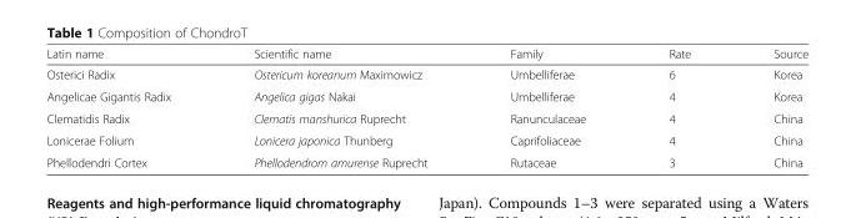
<table><thead><tr><td>Latin name</td><td>Scientific name</td><td>Family</td><td>Rate</td><td>Source</td></tr></thead><tbody><tr><td>Osterici Radix</td><td>Ostericum koreanum Maximowicz</td><td>Umbelliferae</td><td>6</td><td>Korea</td></tr><tr><td>Angelicae Gigantis Radix</td><td>Angelica gigas Nakai</td><td>Umbelliferae</td><td>4</td><td>Korea</td></tr><tr><td>Clematidis Radix</td><td>Clematis manshurica Ruprecht</td><td>Ranunculaceae</td><td>4</td><td>China</td></tr><tr><td>Lonicerae Folium</td><td>Lonicera japonica Thunberg</td><td>Caprifoliaceae</td><td>4</td><td>China</td></tr><tr><td>Phellodendri Cortex</td><td>Phellodendrom amurense Ruprecht</td><td>Rutaceae</td><td>3</td><td>China</td></tr></tbody></table>